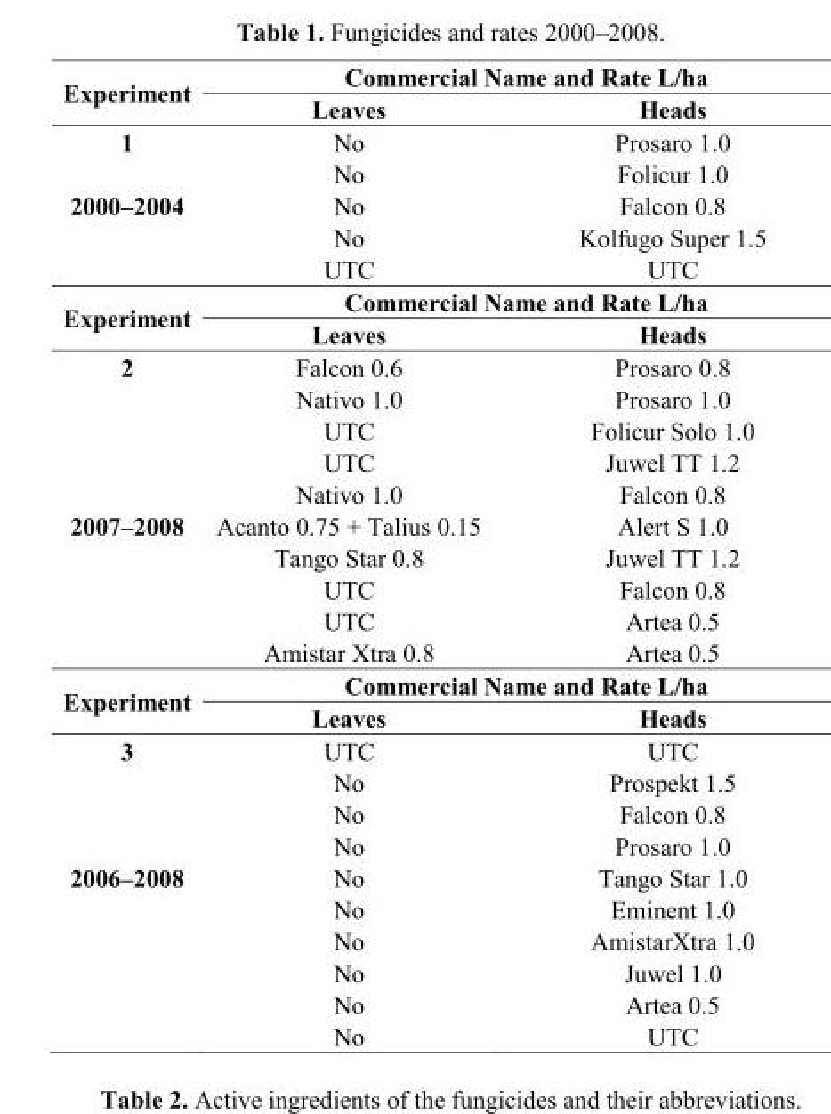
<table><thead><tr><td rowspan="2">Experiment</td><td colspan="2">Commercial Name and Rate L/ha</td></tr><tr><td>Leaves</td><td>Heads</td></tr></thead><tbody><tr><td rowspan="2">1</td><td>No</td><td>Prosaro 1.0</td></tr><tr><td>No</td><td>Folicur 1.0</td></tr><tr><td rowspan="3">2000–2004</td><td>No</td><td>Falcon 0.8</td></tr><tr><td>No</td><td>Kolfugo Super 1.5</td></tr><tr><td>UTC</td><td>UTC</td></tr><tr><td rowspan="2">Experiment</td><td colspan="2">Commercial Name and Rate L/ha</td></tr><tr><td>Leaves</td><td>Heads</td></tr><tr><td rowspan="5">2</td><td>Falcon 0.6</td><td>Prosaro 0.8</td></tr><tr><td>Nativo 1.0</td><td>Prosaro 1.0</td></tr><tr><td>UTC</td><td>Folicur Solo 1.0</td></tr><tr><td>UTC</td><td>Juwel TT 1.2</td></tr><tr><td>Nativo 1.0</td><td>Falcon 0.8</td></tr><tr><td rowspan="5">2007–2008</td><td>Acanto 0.75 + Talius 0.15</td><td>Alert S 1.0</td></tr><tr><td>Tango Star 0.8</td><td>Juwel TT 1.2</td></tr><tr><td>UTC</td><td>Falcon 0.8</td></tr><tr><td>UTC</td><td>Artea 0.5</td></tr><tr><td>Amistar Xtra 0.8</td><td>Artea 0.5</td></tr><tr><td rowspan="2">Experiment</td><td colspan="2">Commercial Name and Rate L/ha</td></tr><tr><td>Leaves</td><td>Heads</td></tr><tr><td rowspan="4">3</td><td>UTC</td><td>UTC</td></tr><tr><td>No</td><td>Prospekt 1.5</td></tr><tr><td>No</td><td>Falcon 0.8</td></tr><tr><td>No</td><td>Prosaro 1.0</td></tr><tr><td rowspan="6">2006–2008</td><td>No</td><td>Tango Star 1.0</td></tr><tr><td>No</td><td>Eminent 1.0</td></tr><tr><td>No</td><td>AmistarXtra 1.0</td></tr><tr><td>No</td><td>Juwel 1.0</td></tr><tr><td>No</td><td>Artea 0.5</td></tr><tr><td>No</td><td>UTC</td></tr></tbody></table>